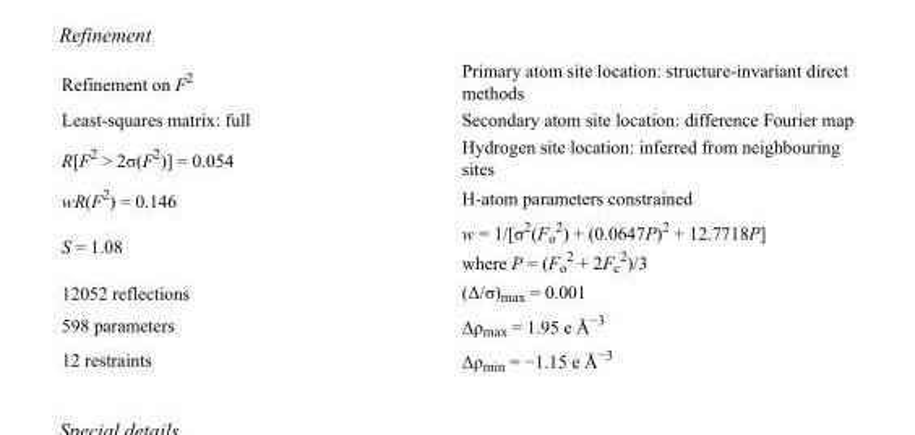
<table><tbody><tr><td>Refinement on F<sup>2</sup></td><td>Primary atom site location: structure-invariant direct methods</td></tr><tr><td>Least-squares matrix: full</td><td>Secondary atom site location: difference Fourier map</td></tr><tr><td>R[F<sup>2</sup> &gt; 2σ(F<sup>2</sup>)] = 0.054</td><td>Hydrogen site location: inferred from neighbouring sites</td></tr><tr><td>wR(F<sup>2</sup>) = 0.146</td><td>H-atom parameters constrained</td></tr><tr><td>S = 1.08</td><td>w = 1/[σ<sup>2</sup>(F<sub>o</sub> <sup>2</sup>) + (0.0647P)<sup>2</sup> + 12.7718P] where P = (F<sub>o</sub> <sup>2</sup> + 2F<sub>c</sub> <sup>2</sup>)/3</td></tr><tr><td>12052 reflections</td><td>(Δ/σ)<sub>max</sub> = 0.001</td></tr><tr><td>598 parameters</td><td>Δρ<sub>max</sub> = 1.95 e Å<sup>−3</sup></td></tr><tr><td>12 restraints</td><td>Δρ<sub>min</sub> = −1.15 e Å<sup>−3</sup></td></tr></tbody></table>